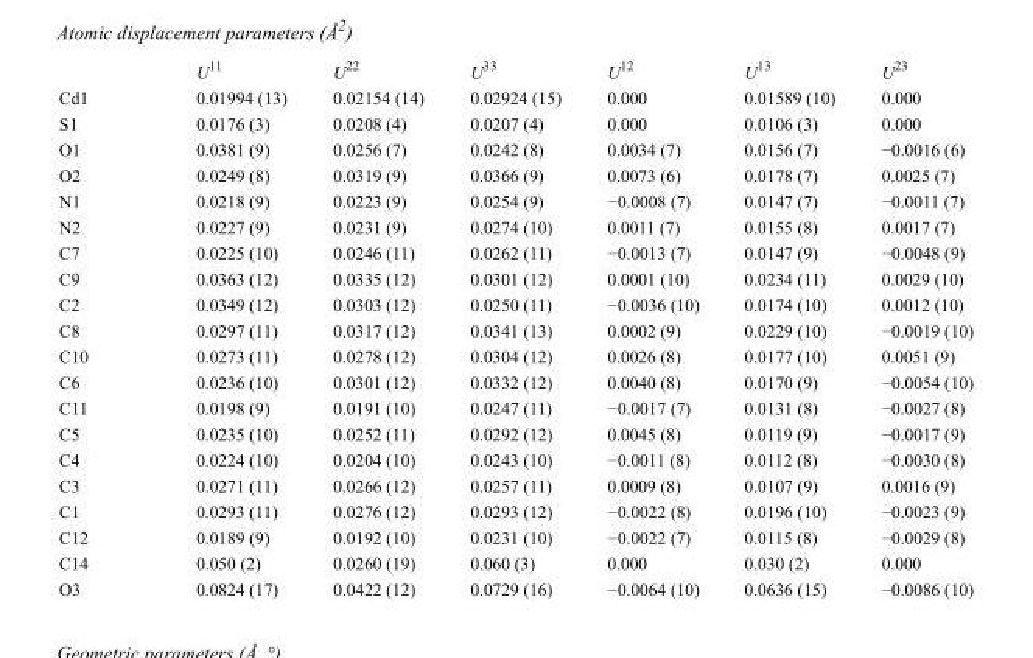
<table><thead><tr><td></td><td>U<sup>11</sup></td><td>U<sup>22</sup></td><td>U<sup>33</sup></td><td>U<sup>12</sup></td><td>U<sup>13</sup></td><td>U<sup>23</sup></td></tr></thead><tbody><tr><td>Cd1</td><td>0.01994 (13)</td><td>0.02154 (14)</td><td>0.02924 (15)</td><td>0.000</td><td>0.01589 (10)</td><td>0.000</td></tr><tr><td>S1</td><td>0.0176 (3)</td><td>0.0208 (4)</td><td>0.0207 (4)</td><td>0.000</td><td>0.0106 (3)</td><td>0.000</td></tr><tr><td>O1</td><td>0.0381 (9)</td><td>0.0256 (7)</td><td>0.0242 (8)</td><td>0.0034 (7)</td><td>0.0156 (7)</td><td>−0.0016 (6)</td></tr><tr><td>O2</td><td>0.0249 (8)</td><td>0.0319 (9)</td><td>0.0366 (9)</td><td>0.0073 (6)</td><td>0.0178 (7)</td><td>0.0025 (7)</td></tr><tr><td>N1</td><td>0.0218 (9)</td><td>0.0223 (9)</td><td>0.0254 (9)</td><td>−0.0008 (7)</td><td>0.0147 (7)</td><td>−0.0011 (7)</td></tr><tr><td>N2</td><td>0.0227 (9)</td><td>0.0231 (9)</td><td>0.0274 (10)</td><td>0.0011 (7)</td><td>0.0155 (8)</td><td>0.0017 (7)</td></tr><tr><td>C7</td><td>0.0225 (10)</td><td>0.0246 (11)</td><td>0.0262 (11)</td><td>−0.0013 (7)</td><td>0.0147 (9)</td><td>−0.0048 (9)</td></tr><tr><td>C9</td><td>0.0363 (12)</td><td>0.0335 (12)</td><td>0.0301 (12)</td><td>0.0001 (10)</td><td>0.0234 (11)</td><td>0.0029 (10)</td></tr><tr><td>C2</td><td>0.0349 (12)</td><td>0.0303 (12)</td><td>0.0250 (11)</td><td>−0.0036 (10)</td><td>0.0174 (10)</td><td>0.0012 (10)</td></tr><tr><td>C8</td><td>0.0297 (11)</td><td>0.0317 (12)</td><td>0.0341 (13)</td><td>0.0002 (9)</td><td>0.0229 (10)</td><td>−0.0019 (10)</td></tr><tr><td>C10</td><td>0.0273 (11)</td><td>0.0278 (12)</td><td>0.0304 (12)</td><td>0.0026 (8)</td><td>0.0177 (10)</td><td>0.0051 (9)</td></tr><tr><td>C6</td><td>0.0236 (10)</td><td>0.0301 (12)</td><td>0.0332 (12)</td><td>0.0040 (8)</td><td>0.0170 (9)</td><td>−0.0054 (10)</td></tr><tr><td>C11</td><td>0.0198 (9)</td><td>0.0191 (10)</td><td>0.0247 (11)</td><td>−0.0017 (7)</td><td>0.0131 (8)</td><td>−0.0027 (8)</td></tr><tr><td>C5</td><td>0.0235 (10)</td><td>0.0252 (11)</td><td>0.0292 (12)</td><td>0.0045 (8)</td><td>0.0119 (9)</td><td>−0.0017 (9)</td></tr><tr><td>C4</td><td>0.0224 (10)</td><td>0.0204 (10)</td><td>0.0243 (10)</td><td>−0.0011 (8)</td><td>0.0112 (8)</td><td>−0.0030 (8)</td></tr><tr><td>C3</td><td>0.0271 (11)</td><td>0.0266 (12)</td><td>0.0257 (11)</td><td>0.0009 (8)</td><td>0.0107 (9)</td><td>0.0016 (9)</td></tr><tr><td>C1</td><td>0.0293 (11)</td><td>0.0276 (12)</td><td>0.0293 (12)</td><td>−0.0022 (8)</td><td>0.0196 (10)</td><td>−0.0023 (9)</td></tr><tr><td>C12</td><td>0.0189 (9)</td><td>0.0192 (10)</td><td>0.0231 (10)</td><td>−0.0022 (7)</td><td>0.0115 (8)</td><td>−0.0029 (8)</td></tr><tr><td>C14</td><td>0.050 (2)</td><td>0.0260 (19)</td><td>0.060 (3)</td><td>0.000</td><td>0.030 (2)</td><td>0.000</td></tr><tr><td>O3</td><td>0.0824 (17)</td><td>0.0422 (12)</td><td>0.0729 (16)</td><td>−0.0064 (10)</td><td>0.0636 (15)</td><td>−0.0086 (10)</td></tr></tbody></table>